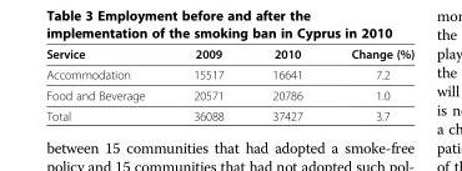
<table><thead><tr><td>Service</td><td>2009</td><td>2010</td><td>Change (%)</td></tr></thead><tbody><tr><td>Accommodation</td><td>15517</td><td>16641</td><td>7.2</td></tr><tr><td>Food and Beverage</td><td>20571</td><td>20786</td><td>1.0</td></tr><tr><td>Total</td><td>36088</td><td>37427</td><td>3.7</td></tr></tbody></table>